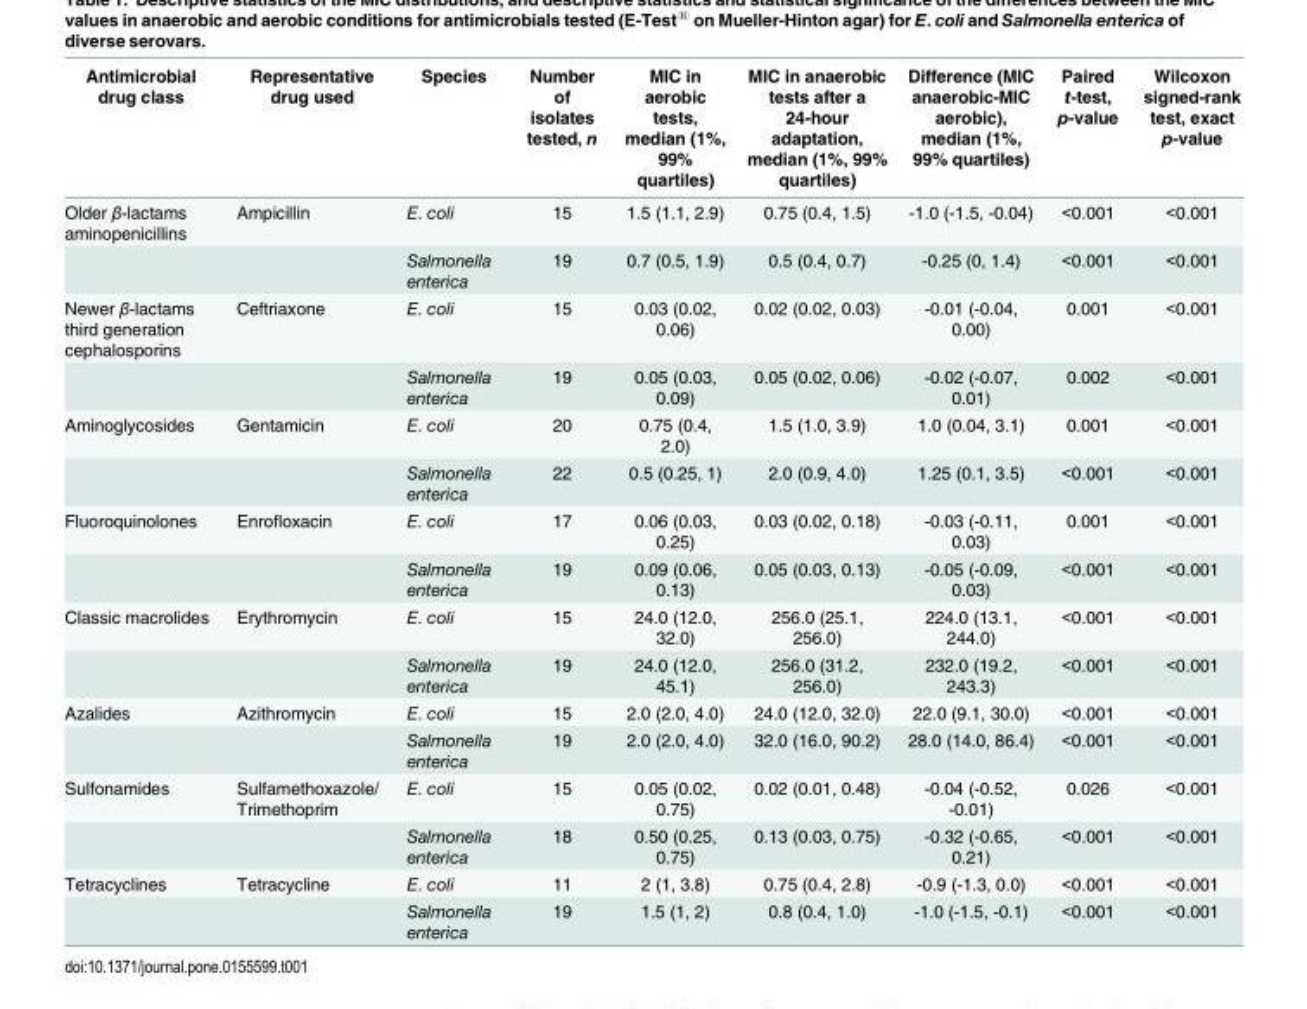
<table><thead><tr><td>Antimicrobial drug class</td><td>Representative drug used</td><td>Species</td><td>Number of isolates tested, n</td><td>MIC in aerobic tests, median (1%, 99% quartiles)</td><td>MIC in anaerobic tests after a 24-hour adaptation, median (1%, 99% quartiles)</td><td>Difference (MIC anaerobic-MIC aerobic), median (1%, 99% quartiles)</td><td>Paired t-test, p-value</td><td>Wilcoxon signed-rank test, exact p-value</td></tr></thead><tbody><tr><td rowspan="2">Older β-lactams aminopenicillins</td><td>Ampicillin</td><td>E. coli</td><td>15</td><td>1.5 (1.1, 2.9)</td><td>0.75 (0.4, 1.5)</td><td>-1.0 (-1.5, -0.04)</td><td>&lt;0.001</td><td>&lt;0.001</td></tr><tr><td></td><td>Salmonella enterica</td><td>19</td><td>0.7 (0.5, 1.9)</td><td>0.5 (0.4, 0.7)</td><td>-0.25 (0, 1.4)</td><td>&lt;0.001</td><td>&lt;0.001</td></tr><tr><td rowspan="2">Newer β-lactams third generation cephalosporins</td><td>Ceftriaxone</td><td>E. coli</td><td>15</td><td>0.03 (0.02, 0.06)</td><td>0.02 (0.02, 0.03)</td><td>-0.01 (-0.04, 0.00)</td><td>0.001</td><td>&lt;0.001</td></tr><tr><td></td><td>Salmonella enterica</td><td>19</td><td>0.05 (0.03, 0.09)</td><td>0.05 (0.02, 0.06)</td><td>-0.02 (-0.07, 0.01)</td><td>0.002</td><td>&lt;0.001</td></tr><tr><td rowspan="2">Aminoglycosides</td><td>Gentamicin</td><td>E. coli</td><td>20</td><td>0.75 (0.4, 2.0)</td><td>1.5 (1.0, 3.9)</td><td>1.0 (0.04, 3.1)</td><td>0.001</td><td>&lt;0.001</td></tr><tr><td></td><td>Salmonella enterica</td><td>22</td><td>0.5 (0.25, 1)</td><td>2.0 (0.9, 4.0)</td><td>1.25 (0.1, 3.5)</td><td>&lt;0.001</td><td>&lt;0.001</td></tr><tr><td rowspan="2">Fluoroquinolones</td><td>Enrofloxacin</td><td>E. coli</td><td>17</td><td>0.06 (0.03, 0.25)</td><td>0.03 (0.02, 0.18)</td><td>-0.03 (-0.11, 0.03)</td><td>0.001</td><td>&lt;0.001</td></tr><tr><td></td><td>Salmonella enterica</td><td>19</td><td>0.09 (0.06, 0.13)</td><td>0.05 (0.03, 0.13)</td><td>-0.05 (-0.09, 0.03)</td><td>&lt;0.001</td><td>&lt;0.001</td></tr><tr><td rowspan="2">Classic macrolides</td><td>Erythromycin</td><td>E. coli</td><td>15</td><td>24.0 (12.0, 32.0)</td><td>256.0 (25.1, 256.0)</td><td>224.0 (13.1, 244.0)</td><td>&lt;0.001</td><td>&lt;0.001</td></tr><tr><td></td><td>Salmonella enterica</td><td>19</td><td>24.0 (12.0, 45.1)</td><td>256.0 (31.2, 256.0)</td><td>232.0 (19.2, 243.3)</td><td>&lt;0.001</td><td>&lt;0.001</td></tr><tr><td rowspan="2">Azalides</td><td>Azithromycin</td><td>E. coli</td><td>15</td><td>2.0 (2.0, 4.0)</td><td>24.0 (12.0, 32.0)</td><td>22.0 (9.1, 30.0)</td><td>&lt;0.001</td><td>&lt;0.001</td></tr><tr><td></td><td>Salmonella enterica</td><td>19</td><td>2.0 (2.0, 4.0)</td><td>32.0 (16.0, 90.2)</td><td>28.0 (14.0, 86.4)</td><td>&lt;0.001</td><td>&lt;0.001</td></tr><tr><td rowspan="2">Sulfonamides</td><td>Sulfamethoxazole/ Trimethoprim</td><td>E. coli</td><td>15</td><td>0.05 (0.02, 0.75)</td><td>0.02 (0.01, 0.48)</td><td>-0.04 (-0.52, -0.01)</td><td>0.026</td><td>&lt;0.001</td></tr><tr><td></td><td>Salmonella enterica</td><td>18</td><td>0.50 (0.25, 0.75)</td><td>0.13 (0.03, 0.75)</td><td>-0.32 (-0.65, 0.21)</td><td>&lt;0.001</td><td>&lt;0.001</td></tr><tr><td rowspan="2">Tetracyclines</td><td>Tetracycline</td><td>E. coli</td><td>11</td><td>2 (1, 3.8)</td><td>0.75 (0.4, 2.8)</td><td>-0.9 (-1.3, 0.0)</td><td>&lt;0.001</td><td>&lt;0.001</td></tr><tr><td></td><td>Salmonella enterica</td><td>19</td><td>1.5 (1, 2)</td><td>0.8 (0.4, 1.0)</td><td>-1.0 (-1.5, -0.1)</td><td>&lt;0.001</td><td>&lt;0.001</td></tr></tbody></table>